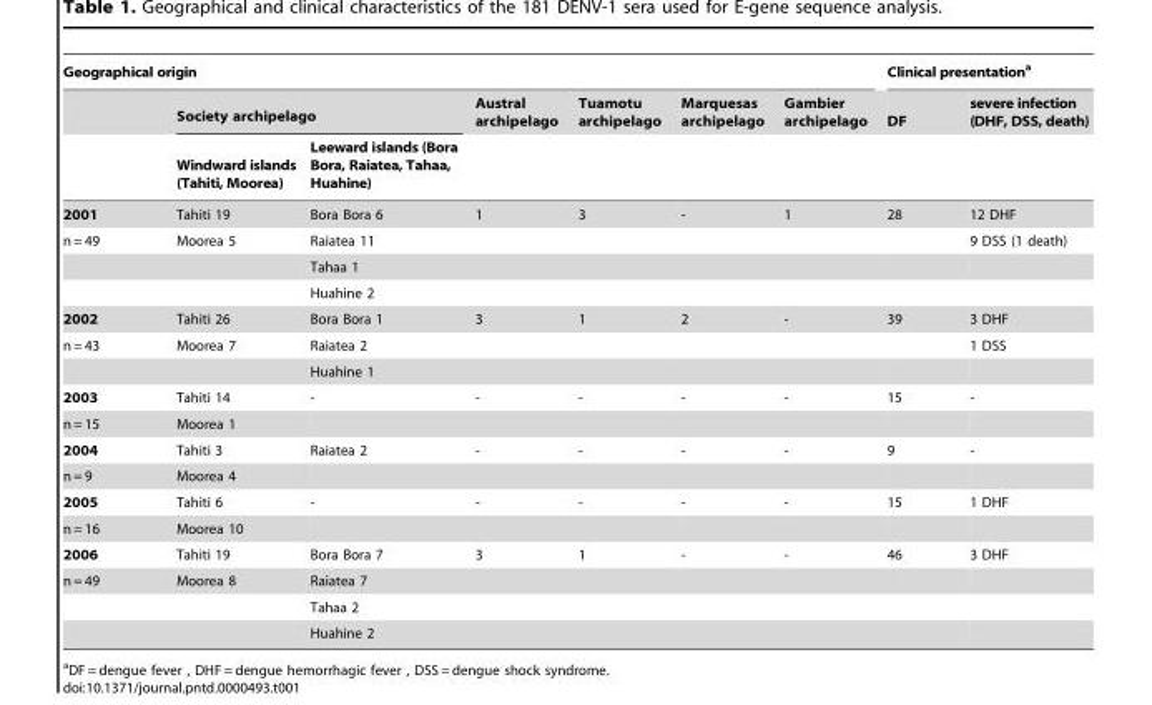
<table><thead><tr><td colspan="7">Geographical origin</td><td colspan="2">Clinical presentation<sup>a</sup></td></tr><tr><td rowspan="2"></td><td colspan="2">Society archipelago</td><td rowspan="2">Austral archipelago</td><td rowspan="2">Tuamotu archipelago</td><td rowspan="2">Marquesas archipelago</td><td rowspan="2">Gambier archipelago</td><td rowspan="2">DF</td><td rowspan="2">severe infection (DHF, DSS, death)</td></tr><tr><td>Windward islands (Tahiti, Moorea)</td><td>Leeward islands (Bora Bora, Raiatea, Tahaa, Huahine)</td></tr></thead><tbody><tr><td>2001</td><td>Tahiti 19</td><td>Bora Bora 6</td><td>1</td><td>3</td><td>-</td><td>1</td><td>28</td><td>12 DHF</td></tr><tr><td rowspan="3">n = 49</td><td>Moorea 5</td><td>Raiatea 11</td><td></td><td></td><td></td><td></td><td></td><td>9 DSS (1 death)</td></tr><tr><td></td><td>Tahaa 1</td><td></td><td></td><td></td><td></td><td></td><td></td></tr><tr><td></td><td>Huahine 2</td><td></td><td></td><td></td><td></td><td></td><td></td></tr><tr><td>2002</td><td>Tahiti 26</td><td>Bora Bora 1</td><td>3</td><td>1</td><td>2</td><td>-</td><td>39</td><td>3 DHF</td></tr><tr><td rowspan="2">n = 43</td><td>Moorea 7</td><td>Raiatea 2</td><td></td><td></td><td></td><td></td><td></td><td>1 DSS</td></tr><tr><td></td><td>Huahine 1</td><td></td><td></td><td></td><td></td><td></td><td></td></tr><tr><td>2003</td><td>Tahiti 14</td><td>-</td><td>-</td><td>-</td><td>-</td><td>-</td><td>15</td><td>-</td></tr><tr><td>n = 15</td><td>Moorea 1</td><td></td><td></td><td></td><td></td><td></td><td></td><td></td></tr><tr><td>2004</td><td>Tahiti 3</td><td>Raiatea 2</td><td>-</td><td>-</td><td>-</td><td>-</td><td>9</td><td>-</td></tr><tr><td>n = 9</td><td>Moorea 4</td><td></td><td></td><td></td><td></td><td></td><td></td><td></td></tr><tr><td>2005</td><td>Tahiti 6</td><td>-</td><td>-</td><td>-</td><td>-</td><td>-</td><td>15</td><td>1 DHF</td></tr><tr><td>n = 16</td><td>Moorea 10</td><td></td><td></td><td></td><td></td><td></td><td></td><td></td></tr><tr><td>2006</td><td>Tahiti 19</td><td>Bora Bora 7</td><td>3</td><td>1</td><td>-</td><td>-</td><td>46</td><td>3 DHF</td></tr><tr><td rowspan="3">n = 49</td><td>Moorea 8</td><td>Raiatea 7</td><td></td><td></td><td></td><td></td><td></td><td></td></tr><tr><td></td><td>Tahaa 2</td><td></td><td></td><td></td><td></td><td></td><td></td></tr><tr><td></td><td>Huahine 2</td><td></td><td></td><td></td><td></td><td></td><td></td></tr></tbody></table>